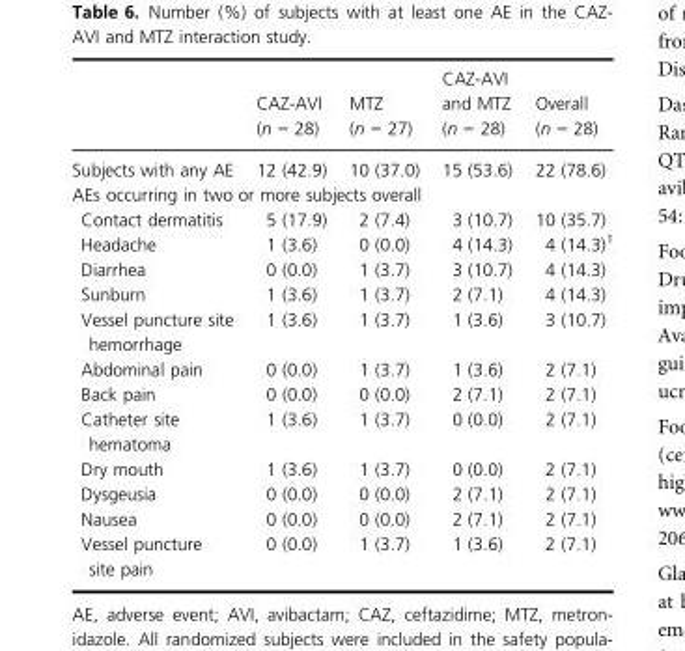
<table><thead><tr><td></td><td>CAZ-AVI (n = 28)</td><td>MTZ (n = 27)</td><td>CAZ-AVI and MTZ (n = 28)</td><td>Overall (n = 28)</td></tr></thead><tbody><tr><td>Subjects with any AE</td><td>12 (42.9)</td><td>10 (37.0)</td><td>15 (53.6)</td><td>22 (78.6)</td></tr><tr><td colspan="5">AEs occurring in two or more subjects overall</td></tr><tr><td>Contact dermatitis</td><td>5 (17.9)</td><td>2 (7.4)</td><td>3 (10.7)</td><td>10 (35.7)</td></tr><tr><td>Headache</td><td>1 (3.6)</td><td>0 (0.0)</td><td>4 (14.3)</td><td>4 (14.3)<sup>1</sup></td></tr><tr><td>Diarrhea</td><td>0 (0.0)</td><td>1 (3.7)</td><td>3 (10.7)</td><td>4 (14.3)</td></tr><tr><td>Sunburn</td><td>1 (3.6)</td><td>1 (3.7)</td><td>2 (7.1)</td><td>4 (14.3)</td></tr><tr><td>Vessel puncture site hemorrhage</td><td>1 (3.6)</td><td>1 (3.7)</td><td>1 (3.6)</td><td>3 (10.7)</td></tr><tr><td>Abdominal pain</td><td>0 (0.0)</td><td>1 (3.7)</td><td>1 (3.6)</td><td>2 (7.1)</td></tr><tr><td>Back pain</td><td>0 (0.0)</td><td>0 (0.0)</td><td>2 (7.1)</td><td>2 (7.1)</td></tr><tr><td>Catheter site hematoma</td><td>1 (3.6)</td><td>1 (3.7)</td><td>0 (0.0)</td><td>2 (7.1)</td></tr><tr><td>Dry mouth</td><td>1 (3.6)</td><td>1 (3.7)</td><td>0 (0.0)</td><td>2 (7.1)</td></tr><tr><td>Dysgeusia</td><td>0 (0.0)</td><td>0 (0.0)</td><td>2 (7.1)</td><td>2 (7.1)</td></tr><tr><td>Nausea</td><td>0 (0.0)</td><td>0 (0.0)</td><td>2 (7.1)</td><td>2 (7.1)</td></tr><tr><td>Vessel puncture site pain</td><td>0 (0.0)</td><td>1 (3.7)</td><td>1 (3.6)</td><td>2 (7.1)</td></tr></tbody></table>